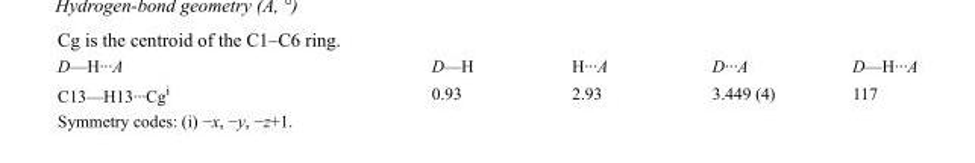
<table><tbody><tr><td>D—H···A</td><td>D—H</td><td>H···A</td><td>D···A</td><td>D—H···A</td></tr><tr><td>C13—H13···Cg<sup>i</sup></td><td>0.93</td><td>2.93</td><td>3.449 (4)</td><td>117</td></tr></tbody></table>